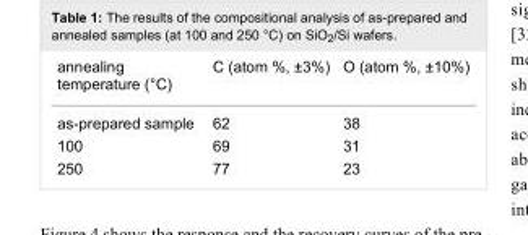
<table><tbody><tr><td>annealing temperature (°C)</td><td>C (atom %, ±3%)</td><td>O (atom %, ±10%)</td></tr><tr><td>as-prepared sample</td><td>62</td><td>38</td></tr><tr><td>100</td><td>69</td><td>31</td></tr><tr><td>250</td><td>77</td><td>23</td></tr></tbody></table>